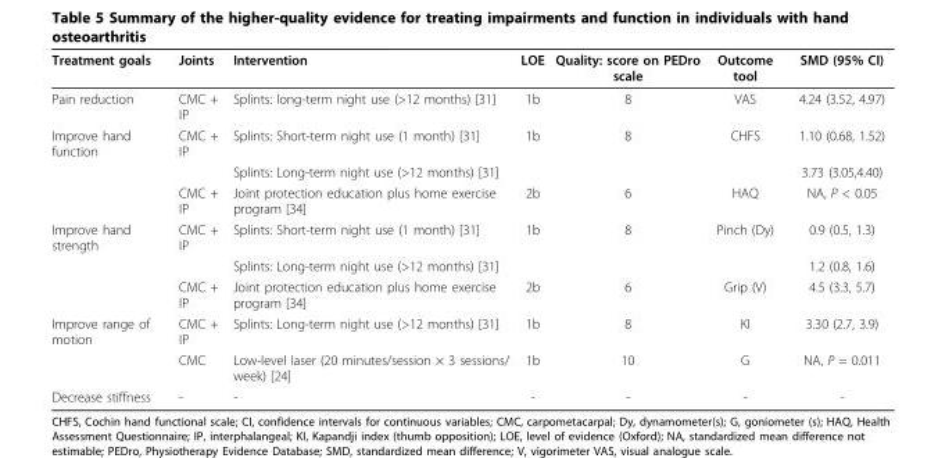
<table><thead><tr><td>Treatment goals</td><td>Joints</td><td>Intervention</td><td>LOE</td><td>Quality: score on PEDro scale</td><td>Outcome tool</td><td>SMD (95% CI)</td></tr></thead><tbody><tr><td>Pain reduction</td><td>CMC + IP</td><td>Splints: long-term night use (&gt;12 months) [31]</td><td>1b</td><td>8</td><td>VAS</td><td>4.24 (3.52, 4.97)</td></tr><tr><td rowspan="3">Improve hand function</td><td>CMC + IP</td><td>Splints: Short-term night use (1 month) [31]</td><td>1b</td><td>8</td><td>CHFS</td><td>1.10 (0.68, 1.52)</td></tr><tr><td></td><td>Splints: Long-term night use (&gt;12 months) [31]</td><td></td><td></td><td></td><td>3.73 (3.05,4.40)</td></tr><tr><td>CMC + IP</td><td>Joint protection education plus home exercise program [34]</td><td>2b</td><td>6</td><td>HAQ</td><td>NA, P &lt; 0.05</td></tr><tr><td rowspan="3">Improve hand strength</td><td>CMC + IP</td><td>Splints: Short-term night use (1 month) [31]</td><td>1b</td><td>8</td><td>Pinch (Dy)</td><td>0.9 (0.5, 1.3)</td></tr><tr><td></td><td>Splints: Long-term night use (&gt;12 months) [31]</td><td></td><td></td><td></td><td>1.2 (0.8, 1.6)</td></tr><tr><td>CMC + IP</td><td>Joint protection education plus home exercise program [34]</td><td>2b</td><td>6</td><td>Grip (V)</td><td>4.5 (3.3, 5.7)</td></tr><tr><td rowspan="2">Improve range of motion</td><td>CMC + IP</td><td>Splints: Long-term night use (&gt;12 months) [31]</td><td>1b</td><td>8</td><td>KI</td><td>3.30 (2.7, 3.9)</td></tr><tr><td>CMC</td><td>Low-level laser (20 minutes/session × 3 sessions/ week) [24]</td><td>1b</td><td>10</td><td>G</td><td>NA, P = 0.011</td></tr><tr><td>Decrease stiffness</td><td>-</td><td>-</td><td>-</td><td>-</td><td>-</td><td>-</td></tr></tbody></table>